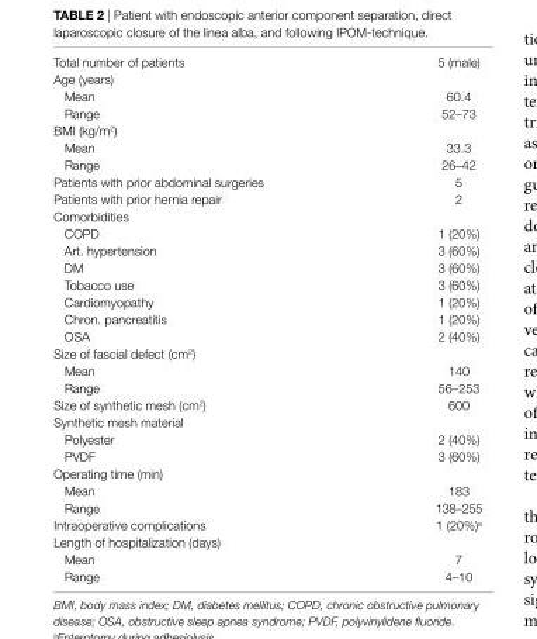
<table><tbody><tr><td>Total number of patients</td><td>5 (male)</td></tr><tr><td colspan="2">Age (years)</td></tr><tr><td>Mean</td><td>60.4</td></tr><tr><td>Range</td><td>52–73</td></tr><tr><td colspan="2">BMI (kg/m<sup>2</sup>)</td></tr><tr><td>Mean</td><td>33.3</td></tr><tr><td>Range</td><td>26–42</td></tr><tr><td>Patients with prior abdominal surgeries</td><td>5</td></tr><tr><td>Patients with prior hernia repair</td><td>2</td></tr><tr><td colspan="2">Comorbidities</td></tr><tr><td>COPD</td><td>1 (20%)</td></tr><tr><td>Art. hypertension</td><td>3 (60%)</td></tr><tr><td>DM</td><td>3 (60%)</td></tr><tr><td>Tobacco use</td><td>3 (60%)</td></tr><tr><td>Cardiomyopathy</td><td>1 (20%)</td></tr><tr><td>Chron. pancreatitis</td><td>1 (20%)</td></tr><tr><td>OSA</td><td>2 (40%)</td></tr><tr><td colspan="2">Size of fascial defect (cm<sup>2</sup>)</td></tr><tr><td>Mean</td><td>140</td></tr><tr><td>Range</td><td>56–253</td></tr><tr><td>Size of synthetic mesh (cm<sup>2</sup>)</td><td>600</td></tr><tr><td colspan="2">Synthetic mesh material</td></tr><tr><td>Polyester</td><td>2 (40%)</td></tr><tr><td>PVDF</td><td>3 (60%)</td></tr><tr><td colspan="2">Operating time (min)</td></tr><tr><td>Mean</td><td>183</td></tr><tr><td>Range</td><td>138–255</td></tr><tr><td>Intraoperative complications</td><td>1 (20%)<sup>a</sup></td></tr><tr><td colspan="2">Length of hospitalization (days)</td></tr><tr><td>Mean</td><td>7</td></tr><tr><td>Range</td><td>4–10</td></tr></tbody></table>